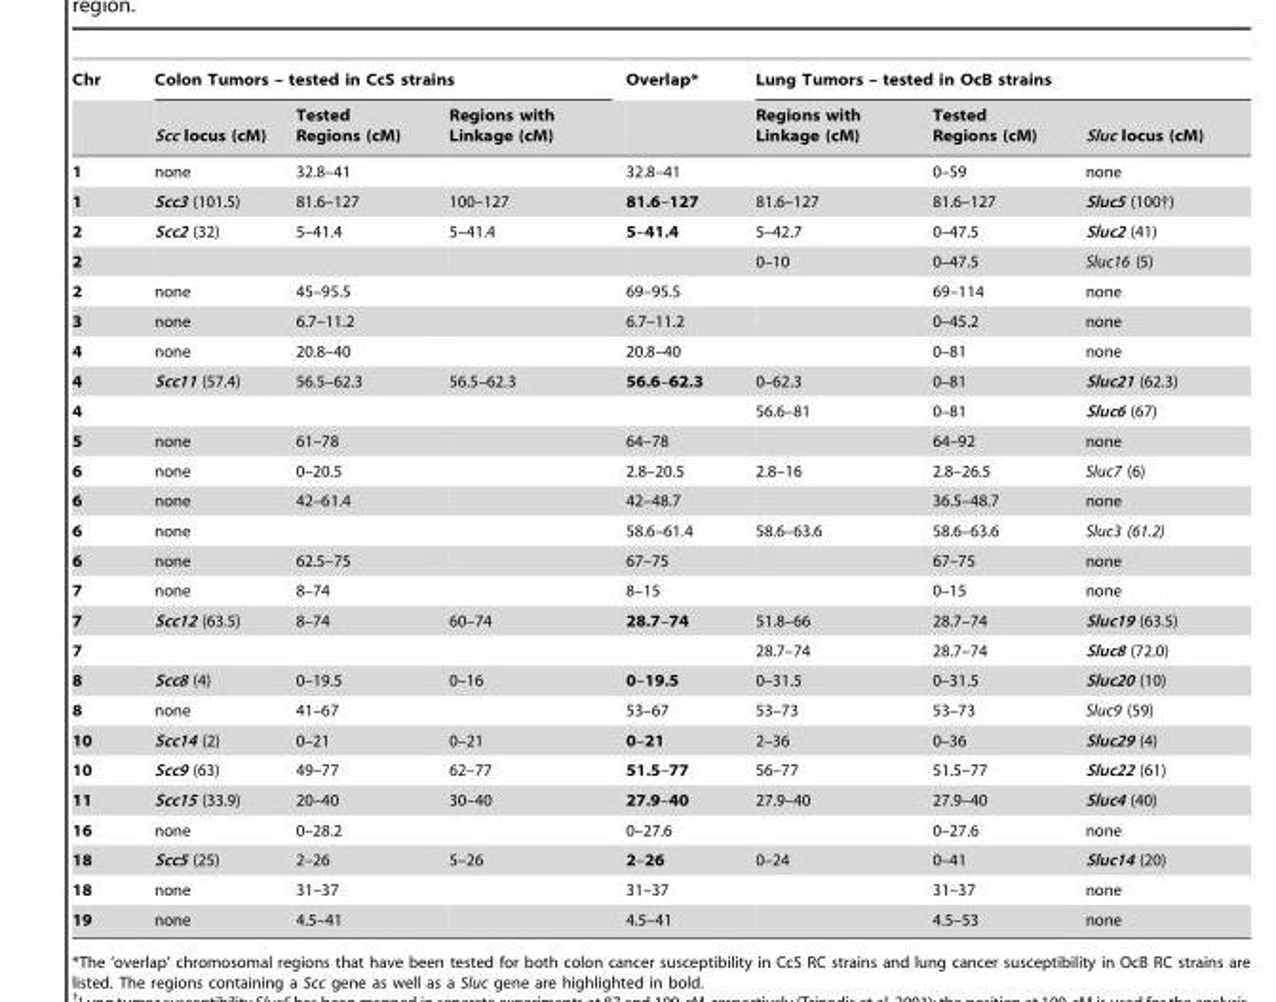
<table><thead><tr><td rowspan="2">Chr</td><td colspan="3">Colon Tumors – tested in CcS strains</td><td rowspan="2">Overlap*</td><td colspan="3">Lung Tumors – tested in OcB strains</td></tr><tr><td>Scc locus (cM)</td><td>Tested Regions (cM)</td><td>Regions with Linkage (cM)</td><td>Regions with Linkage (cM)</td><td>Tested Regions (cM)</td><td>Sluc locus (cM)</td></tr></thead><tbody><tr><td>1</td><td>none</td><td>32.8–41</td><td></td><td>32.8–41</td><td></td><td>0–59</td><td>none</td></tr><tr><td>1</td><td>Scc3 (101.5)</td><td>81.6–127</td><td>100–127</td><td>81.6–127</td><td>81.6–127</td><td>81.6–127</td><td>Sluc5 (100†)</td></tr><tr><td>2</td><td>Scc2 (32)</td><td>5–41.4</td><td>5–41.4</td><td>5–41.4</td><td>5–42.7</td><td>0–47.5</td><td>Sluc2 (41)</td></tr><tr><td>2</td><td></td><td></td><td></td><td></td><td>0–10</td><td>0–47.5</td><td>Sluc16 (5)</td></tr><tr><td>2</td><td>none</td><td>45–95.5</td><td></td><td>69–95.5</td><td></td><td>69–114</td><td>none</td></tr><tr><td>3</td><td>none</td><td>6.7–11.2</td><td></td><td>6.7–11.2</td><td></td><td>0–45.2</td><td>none</td></tr><tr><td>4</td><td>none</td><td>20.8–40</td><td></td><td>20.8–40</td><td></td><td>0–81</td><td>none</td></tr><tr><td>4</td><td>Scc11 (57.4)</td><td>56.5–62.3</td><td>56.5–62.3</td><td>56.6–62.3</td><td>0–62.3</td><td>0–81</td><td>Sluc21 (62.3)</td></tr><tr><td>4</td><td></td><td></td><td></td><td></td><td>56.6–81</td><td>0–81</td><td>Sluc6 (67)</td></tr><tr><td>5</td><td>none</td><td>61–78</td><td></td><td>64–78</td><td></td><td>64–92</td><td>none</td></tr><tr><td>6</td><td>none</td><td>0–20.5</td><td></td><td>2.8–20.5</td><td>2.8–16</td><td>2.8–26.5</td><td>Sluc7 (6)</td></tr><tr><td>6</td><td>none</td><td>42–61.4</td><td></td><td>42–48.7</td><td></td><td>36.5–48.7</td><td>none</td></tr><tr><td>6</td><td>none</td><td></td><td></td><td>58.6–61.4</td><td>58.6–63.6</td><td>58.6–63.6</td><td>Sluc3 (61.2)</td></tr><tr><td>6</td><td>none</td><td>62.5–75</td><td></td><td>67–75</td><td></td><td>67–75</td><td>none</td></tr><tr><td>7</td><td>none</td><td>8–74</td><td></td><td>8–15</td><td></td><td>0–15</td><td>none</td></tr><tr><td>7</td><td>Scc12 (63.5)</td><td>8–74</td><td>60–74</td><td>28.7–74</td><td>51.8–66</td><td>28.7–74</td><td>Sluc19 (63.5)</td></tr><tr><td>7</td><td></td><td></td><td></td><td></td><td>28.7–74</td><td>28.7–74</td><td>Sluc8 (72.0)</td></tr><tr><td>8</td><td>Scc8 (4)</td><td>0–19.5</td><td>0–16</td><td>0–19.5</td><td>0–31.5</td><td>0–31.5</td><td>Sluc20 (10)</td></tr><tr><td>8</td><td>none</td><td>41–67</td><td></td><td>53–67</td><td>53–73</td><td>53–73</td><td>Sluc9 (59)</td></tr><tr><td>10</td><td>Scc14 (2)</td><td>0–21</td><td>0–21</td><td>0–21</td><td>2–36</td><td>0–36</td><td>Sluc29 (4)</td></tr><tr><td>10</td><td>Scc9 (63)</td><td>49–77</td><td>62–77</td><td>51.5–77</td><td>56–77</td><td>51.5–77</td><td>Sluc22 (61)</td></tr><tr><td>11</td><td>Scc15 (33.9)</td><td>20–40</td><td>30–40</td><td>27.9–40</td><td>27.9–40</td><td>27.9–40</td><td>Sluc4 (40)</td></tr><tr><td>16</td><td>none</td><td>0–28.2</td><td></td><td>0–27.6</td><td></td><td>0–27.6</td><td>none</td></tr><tr><td>18</td><td>Scc5 (25)</td><td>2–26</td><td>5–26</td><td>2–26</td><td>0–24</td><td>0–41</td><td>Sluc14 (20)</td></tr><tr><td>18</td><td>none</td><td>31–37</td><td></td><td>31–37</td><td></td><td>31–37</td><td>none</td></tr><tr><td>19</td><td>none</td><td>4.5–41</td><td></td><td>4.5–41</td><td></td><td>4.5–53</td><td>none</td></tr></tbody></table>